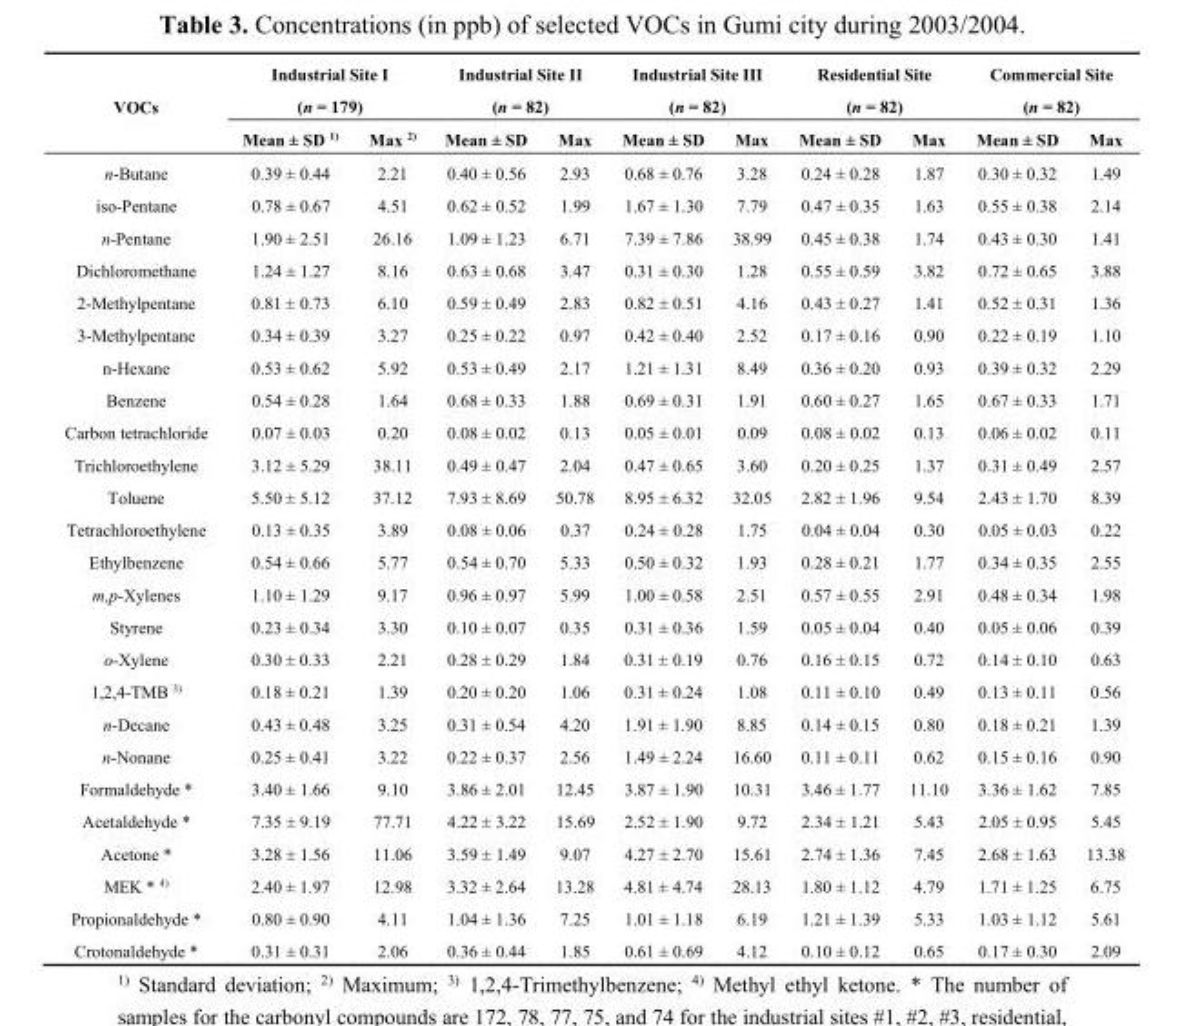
<table><thead><tr><td rowspan="2">VOCs</td><td colspan="2">Industrial Site I (n = 179)</td><td colspan="2">Industrial Site II (n = 82)</td><td colspan="2">Industrial Site III (n = 82)</td><td colspan="2">Residential Site (n = 82)</td><td colspan="2">Commercial Site (n = 82)</td></tr><tr><td>Mean ± SD <sup>1)</sup></td><td>Max <sup>2)</sup></td><td>Mean ± SD</td><td>Max</td><td>Mean ± SD</td><td>Max</td><td>Mean ± SD</td><td>Max</td><td>Mean ± SD</td><td>Max</td></tr></thead><tbody><tr><td>n-Butane</td><td>0.39 ± 0.44</td><td>2.21</td><td>0.40 ± 0.56</td><td>2.93</td><td>0.68 ± 0.76</td><td>3.28</td><td>0.24 ± 0.28</td><td>1.87</td><td>0.30 ± 0.32</td><td>1.49</td></tr><tr><td>iso-Pentane</td><td>0.78 ± 0.67</td><td>4.51</td><td>0.62 ± 0.52</td><td>1.99</td><td>1.67 ± 1.30</td><td>7.79</td><td>0.47 ± 0.35</td><td>1.63</td><td>0.55 ± 0.38</td><td>2.14</td></tr><tr><td>n-Pentane</td><td>1.90 ± 2.51</td><td>26.16</td><td>1.09 ± 1.23</td><td>6.71</td><td>7.39 ± 7.86</td><td>38.99</td><td>0.45 ± 0.38</td><td>1.74</td><td>0.43 ± 0.30</td><td>1.41</td></tr><tr><td>Dichloromethane</td><td>1.24 ± 1.27</td><td>8.16</td><td>0.63 ± 0.68</td><td>3.47</td><td>0.31 ± 0.30</td><td>1.28</td><td>0.55 ± 0.59</td><td>3.82</td><td>0.72 ± 0.65</td><td>3.88</td></tr><tr><td>2-Methylpentane</td><td>0.81 ± 0.73</td><td>6.10</td><td>0.59 ± 0.49</td><td>2.83</td><td>0.82 ± 0.51</td><td>4.16</td><td>0.43 ± 0.27</td><td>1.41</td><td>0.52 ± 0.31</td><td>1.36</td></tr><tr><td>3-Methylpentane</td><td>0.34 ± 0.39</td><td>3.27</td><td>0.25 ± 0.22</td><td>0.97</td><td>0.42 ± 0.40</td><td>2.52</td><td>0.17 ± 0.16</td><td>0.90</td><td>0.22 ± 0.19</td><td>1.10</td></tr><tr><td>n-Hexane</td><td>0.53 ± 0.62</td><td>5.92</td><td>0.53 ± 0.49</td><td>2.17</td><td>1.21 ± 1.31</td><td>8.49</td><td>0.36 ± 0.20</td><td>0.93</td><td>0.39 ± 0.32</td><td>2.29</td></tr><tr><td>Benzene</td><td>0.54 ± 0.28</td><td>1.64</td><td>0.68 ± 0.33</td><td>1.88</td><td>0.69 ± 0.31</td><td>1.91</td><td>0.60 ± 0.27</td><td>1.65</td><td>0.67 ± 0.33</td><td>1.71</td></tr><tr><td>Carbon tetrachloride</td><td>0.07 ± 0.03</td><td>0.20</td><td>0.08 ± 0.02</td><td>0.13</td><td>0.05 ± 0.01</td><td>0.09</td><td>0.08 ± 0.02</td><td>0.13</td><td>0.06 ± 0.02</td><td>0.11</td></tr><tr><td>Trichloroethylene</td><td>3.12 ± 5.29</td><td>38.11</td><td>0.49 ± 0.47</td><td>2.04</td><td>0.47 ± 0.65</td><td>3.60</td><td>0.20 ± 0.25</td><td>1.37</td><td>0.31 ± 0.49</td><td>2.57</td></tr><tr><td>Toluene</td><td>5.50 ± 5.12</td><td>37.12</td><td>7.93 ± 8.69</td><td>50.78</td><td>8.95 ± 6.32</td><td>32.05</td><td>2.82 ± 1.96</td><td>9.54</td><td>2.43 ± 1.70</td><td>8.39</td></tr><tr><td>Tetrachloroethylene</td><td>0.13 ± 0.35</td><td>3.89</td><td>0.08 ± 0.06</td><td>0.37</td><td>0.24 ± 0.28</td><td>1.75</td><td>0.04 ± 0.04</td><td>0.30</td><td>0.05 ± 0.03</td><td>0.22</td></tr><tr><td>Ethylbenzene</td><td>0.54 ± 0.66</td><td>5.77</td><td>0.54 ± 0.70</td><td>5.33</td><td>0.50 ± 0.32</td><td>1.93</td><td>0.28 ± 0.21</td><td>1.77</td><td>0.34 ± 0.35</td><td>2.55</td></tr><tr><td>m,p-Xylenes</td><td>1.10 ± 1.29</td><td>9.17</td><td>0.96 ± 0.97</td><td>5.99</td><td>1.00 ± 0.58</td><td>2.51</td><td>0.57 ± 0.55</td><td>2.91</td><td>0.48 ± 0.34</td><td>1.98</td></tr><tr><td>Styrene</td><td>0.23 ± 0.34</td><td>3.30</td><td>0.10 ± 0.07</td><td>0.35</td><td>0.31 ± 0.36</td><td>1.59</td><td>0.05 ± 0.04</td><td>0.40</td><td>0.05 ± 0.06</td><td>0.39</td></tr><tr><td>o-Xylene</td><td>0.30 ± 0.33</td><td>2.21</td><td>0.28 ± 0.29</td><td>1.84</td><td>0.31 ± 0.19</td><td>0.76</td><td>0.16 ± 0.15</td><td>0.72</td><td>0.14 ± 0.10</td><td>0.63</td></tr><tr><td>1,2,4-TMB <sup>3)</sup></td><td>0.18 ± 0.21</td><td>1.39</td><td>0.20 ± 0.20</td><td>1.06</td><td>0.31 ± 0.24</td><td>1.08</td><td>0.11 ± 0.10</td><td>0.49</td><td>0.13 ± 0.11</td><td>0.56</td></tr><tr><td>n-Decane</td><td>0.43 ± 0.48</td><td>3.25</td><td>0.31 ± 0.54</td><td>4.20</td><td>1.91 ± 1.90</td><td>8.85</td><td>0.14 ± 0.15</td><td>0.80</td><td>0.18 ± 0.21</td><td>1.39</td></tr><tr><td>n-Nonane</td><td>0.25 ± 0.41</td><td>3.22</td><td>0.22 ± 0.37</td><td>2.56</td><td>1.49 ± 2.24</td><td>16.60</td><td>0.11 ± 0.11</td><td>0.62</td><td>0.15 ± 0.16</td><td>0.90</td></tr><tr><td>Formaldehyde *</td><td>3.40 ± 1.66</td><td>9.10</td><td>3.86 ± 2.01</td><td>12.45</td><td>3.87 ± 1.90</td><td>10.31</td><td>3.46 ± 1.77</td><td>11.10</td><td>3.36 ± 1.62</td><td>7.85</td></tr><tr><td>Acetaldehyde *</td><td>7.35 ± 9.19</td><td>77.71</td><td>4.22 ± 3.22</td><td>15.69</td><td>2.52 ± 1.90</td><td>9.72</td><td>2.34 ± 1.21</td><td>5.43</td><td>2.05 ± 0.95</td><td>5.45</td></tr><tr><td>Acetone *</td><td>3.28 ± 1.56</td><td>11.06</td><td>3.59 ± 1.49</td><td>9.07</td><td>4.27 ± 2.70</td><td>15.61</td><td>2.74 ± 1.36</td><td>7.45</td><td>2.68 ± 1.63</td><td>13.38</td></tr><tr><td>MEK * <sup>4)</sup></td><td>2.40 ± 1.97</td><td>12.98</td><td>3.32 ± 2.64</td><td>13.28</td><td>4.81 ± 4.74</td><td>28.13</td><td>1.80 ± 1.12</td><td>4.79</td><td>1.71 ± 1.25</td><td>6.75</td></tr><tr><td>Propionaldehyde *</td><td>0.80 ± 0.90</td><td>4.11</td><td>1.04 ± 1.36</td><td>7.25</td><td>1.01 ± 1.18</td><td>6.19</td><td>1.21 ± 1.39</td><td>5.33</td><td>1.03 ± 1.12</td><td>5.61</td></tr><tr><td>Crotonaldehyde *</td><td>0.31 ± 0.31</td><td>2.06</td><td>0.36 ± 0.44</td><td>1.85</td><td>0.61 ± 0.69</td><td>4.12</td><td>0.10 ± 0.12</td><td>0.65</td><td>0.17 ± 0.30</td><td>2.09</td></tr></tbody></table>